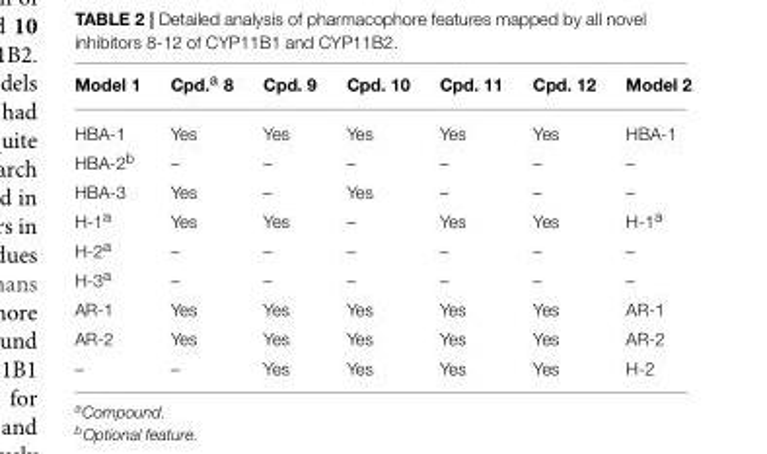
<table><thead><tr><td>Model 1</td><td>Cpd.<sup>a</sup> 8</td><td>Cpd. 9</td><td>Cpd. 10</td><td>Cpd. 11</td><td>Cpd. 12</td><td>Model 2</td></tr></thead><tbody><tr><td>HBA-1</td><td>Yes</td><td>Yes</td><td>Yes</td><td>Yes</td><td>Yes</td><td>HBA-1</td></tr><tr><td>HBA-2<sup>b</sup></td><td>–</td><td>–</td><td>–</td><td>–</td><td>–</td><td>–</td></tr><tr><td>HBA-3</td><td>Yes</td><td>–</td><td>Yes</td><td>–</td><td>–</td><td>–</td></tr><tr><td>H-1<sup>a</sup></td><td>Yes</td><td>Yes</td><td>–</td><td>Yes</td><td>Yes</td><td>H-1<sup>a</sup></td></tr><tr><td>H-2<sup>a</sup></td><td>–</td><td>–</td><td>–</td><td>–</td><td>–</td><td>–</td></tr><tr><td>H-3<sup>a</sup></td><td>–</td><td>–</td><td>–</td><td>–</td><td>–</td><td>–</td></tr><tr><td>AR-1</td><td>Yes</td><td>Yes</td><td>Yes</td><td>Yes</td><td>Yes</td><td>AR-1</td></tr><tr><td>AR-2</td><td>Yes</td><td>Yes</td><td>Yes</td><td>Yes</td><td>Yes</td><td>AR-2</td></tr><tr><td>–</td><td>–</td><td>Yes</td><td>Yes</td><td>Yes</td><td>Yes</td><td>H-2</td></tr></tbody></table>